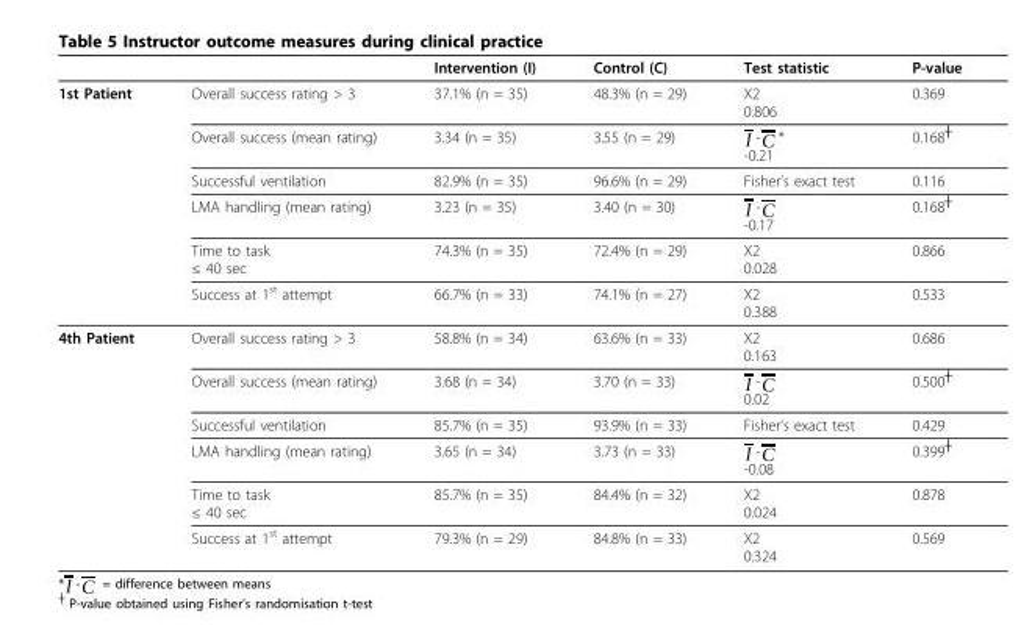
<table><thead><tr><td></td><td></td><td>Intervention (I)</td><td>Control (C)</td><td>Test statistic</td><td>P-value</td></tr></thead><tbody><tr><td rowspan="6">1st Patient</td><td>Overall success rating &gt; 3</td><td>37.1% (n = 35)</td><td>48.3% (n = 29)</td><td>X2 0.806</td><td>0.369</td></tr><tr><td>Overall success (mean rating)</td><td>3.34 (n = 35)</td><td>3.55 (n = 29)</td><td>I -C * -0.21</td><td>0.168<sup>┼</sup></td></tr><tr><td>Successful ventilation</td><td>82.9% (n = 35)</td><td>96.6% (n = 29)</td><td>Fisher’s exact test</td><td>0.116</td></tr><tr><td>LMA handling (mean rating)</td><td>3.23 (n = 35)</td><td>3.40 (n = 30)</td><td>I -C -0.17</td><td>0.168<sup>┼</sup></td></tr><tr><td>Time to task ≤ 40 sec</td><td>74.3% (n = 35)</td><td>72.4% (n = 29)</td><td>X2 0.028</td><td>0.866</td></tr><tr><td>Success at 1<sup>st</sup> attempt</td><td>66.7% (n = 33)</td><td>74.1% (n = 27)</td><td>X2 0.388</td><td>0.533</td></tr><tr><td rowspan="6">4th Patient</td><td>Overall success rating &gt; 3</td><td>58.8% (n = 34)</td><td>63.6% (n = 33)</td><td>X2 0.163</td><td>0.686</td></tr><tr><td>Overall success (mean rating)</td><td>3.68 (n = 34)</td><td>3.70 (n = 33)</td><td>I -C 0.02</td><td>0.500<sup>┼</sup></td></tr><tr><td>Successful ventilation</td><td>85.7% (n = 35)</td><td>93.9% (n = 33)</td><td>Fisher’s exact test</td><td>0.429</td></tr><tr><td>LMA handling (mean rating)</td><td>3.65 (n = 34)</td><td>3.73 (n = 33)</td><td>I -C -0.08</td><td>0.399<sup>┼</sup></td></tr><tr><td>Time to task ≤ 40 sec</td><td>85.7% (n = 35)</td><td>84.4% (n = 32)</td><td>X2 0.024</td><td>0.878</td></tr><tr><td>Success at 1<sup>st</sup> attempt</td><td>79.3% (n = 29)</td><td>84.8% (n = 33)</td><td>X2 0.324</td><td>0.569</td></tr></tbody></table>